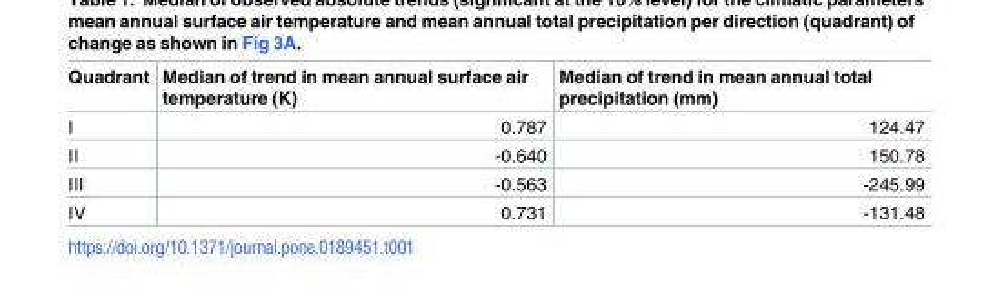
<table><thead><tr><td>Quadrant</td><td>Median of trend in mean annual surface air temperature (K)</td><td>Median of trend in mean annual total precipitation (mm)</td></tr></thead><tbody><tr><td>I</td><td>0.787</td><td>124.47</td></tr><tr><td>II</td><td>-0.640</td><td>150.78</td></tr><tr><td>III</td><td>-0.563</td><td>-245.99</td></tr><tr><td>IV</td><td>0.731</td><td>-131.48</td></tr></tbody></table>